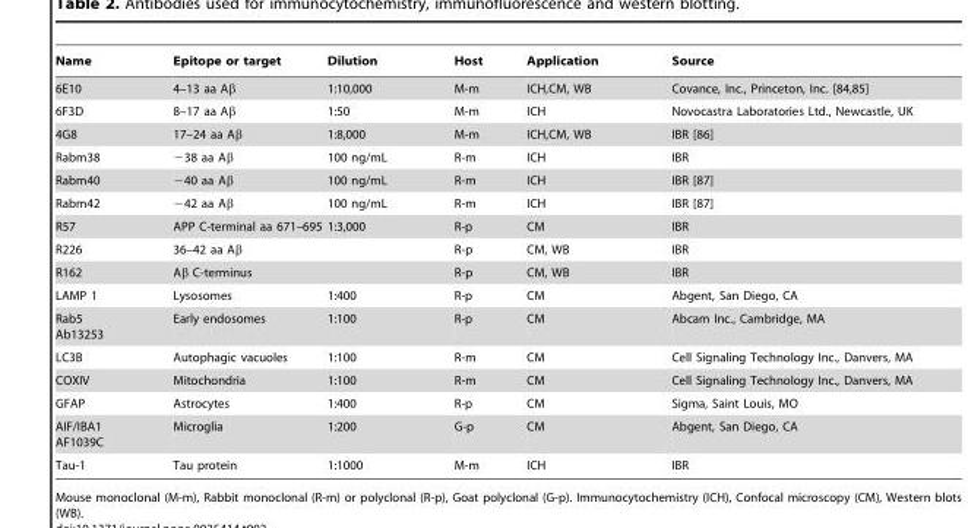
<table><thead><tr><td>Name</td><td>Epitope or target</td><td>Dilution</td><td>Host</td><td>Application</td><td>Source</td></tr></thead><tbody><tr><td>6E10</td><td>4–13 aa Aβ</td><td>1:10,000</td><td>M-m</td><td>ICH,CM, WB</td><td>Covance, Inc., Princeton, Inc. [84,85]</td></tr><tr><td>6F3D</td><td>8–17 aa Aβ</td><td>1:50</td><td>M-m</td><td>ICH</td><td>Novocastra Laboratories Ltd., Newcastle, UK</td></tr><tr><td>4G8</td><td>17–24 aa Aβ</td><td>1:8,000</td><td>M-m</td><td>ICH,CM, WB</td><td>IBR [86]</td></tr><tr><td>Rabm38</td><td>−38 aa Aβ</td><td>100 ng/mL</td><td>R-m</td><td>ICH</td><td>IBR</td></tr><tr><td>Rabm40</td><td>−40 aa Aβ</td><td>100 ng/mL</td><td>R-m</td><td>ICH</td><td>IBR [87]</td></tr><tr><td>Rabm42</td><td>−42 aa Aβ</td><td>100 ng/mL</td><td>R-m</td><td>ICH</td><td>IBR [87]</td></tr><tr><td>R57</td><td>APP C-terminal aa 671–695</td><td>1:3,000</td><td>R-p</td><td>CM</td><td>IBR</td></tr><tr><td>R226</td><td>36–42 aa Aβ</td><td></td><td>R-p</td><td>CM, WB</td><td>IBR</td></tr><tr><td>R162</td><td>Aβ C-terminus</td><td></td><td>R-p</td><td>CM, WB</td><td>IBR</td></tr><tr><td>LAMP 1</td><td>Lysosomes</td><td>1:400</td><td>R-p</td><td>CM</td><td>Abgent, San Diego, CA</td></tr><tr><td>Rab5 Ab13253</td><td>Early endosomes</td><td>1:100</td><td>R-p</td><td>CM</td><td>Abcam Inc., Cambridge, MA</td></tr><tr><td>LC3B</td><td>Autophagic vacuoles</td><td>1:100</td><td>R-m</td><td>CM</td><td>Cell Signaling Technology Inc., Danvers, MA</td></tr><tr><td>COXIV</td><td>Mitochondria</td><td>1:100</td><td>R-m</td><td>CM</td><td>Cell Signaling Technology Inc., Danvers, MA</td></tr><tr><td>GFAP</td><td>Astrocytes</td><td>1:400</td><td>R-p</td><td>CM</td><td>Sigma, Saint Louis, MO</td></tr><tr><td>AIF/IBA1 AF1039C</td><td>Microglia</td><td>1:200</td><td>G-p</td><td>CM</td><td>Abgent, San Diego, CA</td></tr><tr><td>Tau-1</td><td>Tau protein</td><td>1:1000</td><td>M-m</td><td>ICH</td><td>IBR</td></tr></tbody></table>